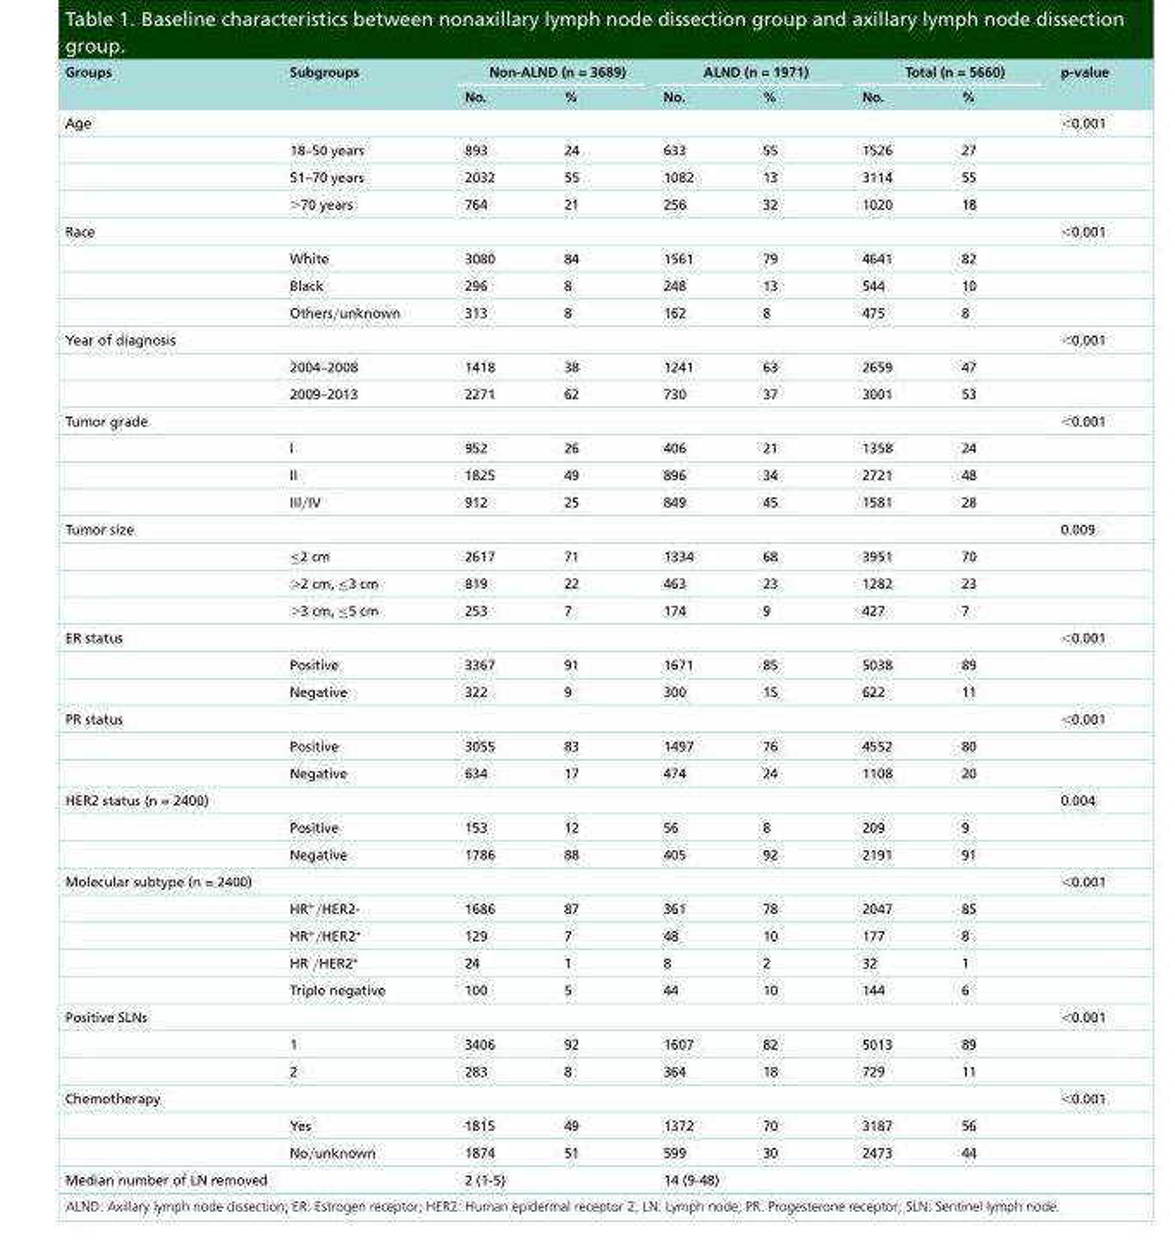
<table><thead><tr><td rowspan="2">Groups</td><td rowspan="2">Subgroups</td><td colspan="2">Non-ALND (n = 3689)</td><td colspan="2">ALND (n = 1971)</td><td colspan="2">Total (n = 5660)</td><td rowspan="2">p-value</td></tr><tr><td>No.</td><td>%</td><td>No.</td><td>%</td><td>No.</td><td>%</td></tr></thead><tbody><tr><td rowspan="4">Age</td><td></td><td></td><td></td><td></td><td></td><td></td><td></td><td>&lt;0.001</td></tr><tr><td>18–50 years</td><td>893</td><td>24</td><td>633</td><td>55</td><td>1526</td><td>27</td><td></td></tr><tr><td>51–70 years</td><td>2032</td><td>55</td><td>1082</td><td>13</td><td>3114</td><td>55</td><td></td></tr><tr><td>&gt;70 years</td><td>764</td><td>21</td><td>256</td><td>32</td><td>1020</td><td>18</td><td></td></tr><tr><td rowspan="4">Race</td><td></td><td></td><td></td><td></td><td></td><td></td><td></td><td>&lt;0.001</td></tr><tr><td>White</td><td>3080</td><td>84</td><td>1561</td><td>79</td><td>4641</td><td>82</td><td></td></tr><tr><td>Black</td><td>296</td><td>8</td><td>248</td><td>13</td><td>544</td><td>10</td><td></td></tr><tr><td>Others/unknown</td><td>313</td><td>8</td><td>162</td><td>8</td><td>475</td><td>8</td><td></td></tr><tr><td rowspan="3">Year of diagnosis</td><td></td><td></td><td></td><td></td><td></td><td></td><td></td><td>&lt;0.001</td></tr><tr><td>2004–2008</td><td>1418</td><td>38</td><td>1241</td><td>63</td><td>2659</td><td>47</td><td></td></tr><tr><td>2009–2013</td><td>2271</td><td>62</td><td>730</td><td>37</td><td>3001</td><td>53</td><td></td></tr><tr><td rowspan="4">Tumor grade</td><td></td><td></td><td></td><td></td><td></td><td></td><td></td><td>&lt;0.001</td></tr><tr><td>I</td><td>952</td><td>26</td><td>406</td><td>21</td><td>1358</td><td>24</td><td></td></tr><tr><td>II</td><td>1825</td><td>49</td><td>896</td><td>34</td><td>2721</td><td>48</td><td></td></tr><tr><td>III/IV</td><td>912</td><td>25</td><td>849</td><td>45</td><td>1581</td><td>28</td><td></td></tr><tr><td rowspan="4">Tumor size</td><td></td><td></td><td></td><td></td><td></td><td></td><td></td><td>0.009</td></tr><tr><td>≤2 cm</td><td>2617</td><td>71</td><td>1334</td><td>68</td><td>3951</td><td>70</td><td></td></tr><tr><td>&gt;2 cm, ≤3 cm</td><td>819</td><td>22</td><td>463</td><td>23</td><td>1282</td><td>23</td><td></td></tr><tr><td>&gt;3 cm, ≤5 cm</td><td>253</td><td>7</td><td>174</td><td>9</td><td>427</td><td>7</td><td></td></tr><tr><td rowspan="3">ER status</td><td></td><td></td><td></td><td></td><td></td><td></td><td></td><td>&lt;0.001</td></tr><tr><td>Positive</td><td>3367</td><td>91</td><td>1671</td><td>85</td><td>5038</td><td>89</td><td></td></tr><tr><td>Negative</td><td>322</td><td>9</td><td>300</td><td>15</td><td>622</td><td>11</td><td></td></tr><tr><td rowspan="3">PR status</td><td></td><td></td><td></td><td></td><td></td><td></td><td></td><td>&lt;0.001</td></tr><tr><td>Positive</td><td>3055</td><td>83</td><td>1497</td><td>76</td><td>4552</td><td>80</td><td></td></tr><tr><td>Negative</td><td>634</td><td>17</td><td>474</td><td>24</td><td>1108</td><td>20</td><td></td></tr><tr><td rowspan="3">HER2 status (n = 2400)</td><td></td><td></td><td></td><td></td><td></td><td></td><td></td><td>0.004</td></tr><tr><td>Positive</td><td>153</td><td>12</td><td>56</td><td>8</td><td>209</td><td>9</td><td></td></tr><tr><td>Negative</td><td>1786</td><td>88</td><td>405</td><td>92</td><td>2191</td><td>91</td><td></td></tr><tr><td rowspan="5">Molecular subtype (n = 2400)</td><td></td><td></td><td></td><td></td><td></td><td></td><td></td><td>&lt;0.001</td></tr><tr><td>HR<sup>+</sup>/HER2-</td><td>1686</td><td>87</td><td>361</td><td>78</td><td>2047</td><td>85</td><td></td></tr><tr><td>HR<sup>+</sup>/HER2<sup>+</sup></td><td>129</td><td>7</td><td>48</td><td>10</td><td>177</td><td>8</td><td></td></tr><tr><td>HR<sup>-</sup>/HER2<sup>+</sup></td><td>24</td><td>1</td><td>8</td><td>2</td><td>32</td><td>1</td><td></td></tr><tr><td>Triple negative</td><td>100</td><td>5</td><td>44</td><td>10</td><td>144</td><td>6</td><td></td></tr><tr><td rowspan="3">Positive SLNs</td><td></td><td></td><td></td><td></td><td></td><td></td><td></td><td>&lt;0.001</td></tr><tr><td>1</td><td>3406</td><td>92</td><td>1607</td><td>82</td><td>5013</td><td>89</td><td></td></tr><tr><td>2</td><td>283</td><td>8</td><td>364</td><td>18</td><td>729</td><td>11</td><td></td></tr><tr><td rowspan="3">Chemotherapy</td><td></td><td></td><td></td><td></td><td></td><td></td><td></td><td>&lt;0.001</td></tr><tr><td>Yes</td><td>1815</td><td>49</td><td>1372</td><td>70</td><td>3187</td><td>56</td><td></td></tr><tr><td>No/unknown</td><td>1874</td><td>51</td><td>599</td><td>30</td><td>2473</td><td>44</td><td></td></tr><tr><td>Median number of LN removed</td><td></td><td>2 (1-5)</td><td></td><td>14 (9-48)</td><td></td><td></td><td></td><td></td></tr></tbody></table>